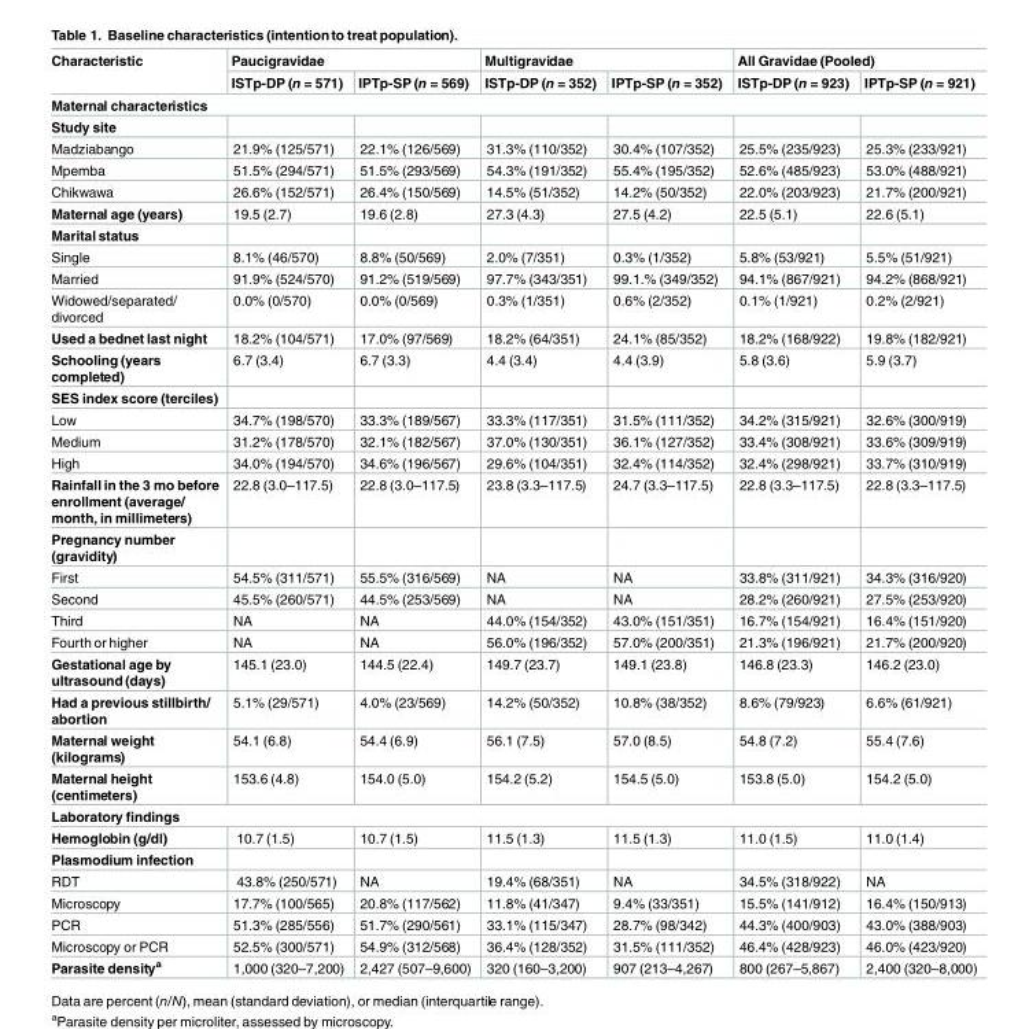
<table><thead><tr><td rowspan="2">Characteristic</td><td colspan="2">Paucigravidae</td><td colspan="2">Multigravidae</td><td colspan="2">All Gravidae (Pooled)</td></tr><tr><td>ISTp-DP (n = 571)</td><td>IPTp-SP (n = 569)</td><td>ISTp-DP (n = 352)</td><td>IPTp-SP (n = 352)</td><td>ISTp-DP (n = 923)</td><td>IPTp-SP (n = 921)</td></tr></thead><tbody><tr><td colspan="7">Maternal characteristics</td></tr><tr><td colspan="7">Study site</td></tr><tr><td>Madziabango</td><td>21.9% (125/571)</td><td>22.1% (126/569)</td><td>31.3% (110/352)</td><td>30.4% (107/352)</td><td>25.5% (235/923)</td><td>25.3% (233/921)</td></tr><tr><td>Mpemba</td><td>51.5% (294/571)</td><td>51.5% (293/569)</td><td>54.3% (191/352)</td><td>55.4% (195/352)</td><td>52.6% (485/923)</td><td>53.0% (488/921)</td></tr><tr><td>Chikwawa</td><td>26.6% (152/571)</td><td>26.4% (150/569)</td><td>14.5% (51/352)</td><td>14.2% (50/352)</td><td>22.0% (203/923)</td><td>21.7% (200/921)</td></tr><tr><td>Maternal age (years)</td><td>19.5 (2.7)</td><td>19.6 (2.8)</td><td>27.3 (4.3)</td><td>27.5 (4.2)</td><td>22.5 (5.1)</td><td>22.6 (5.1)</td></tr><tr><td colspan="7">Marital status</td></tr><tr><td>Single</td><td>8.1% (46/570)</td><td>8.8% (50/569)</td><td>2.0% (7/351)</td><td>0.3% (1/352)</td><td>5.8% (53/921)</td><td>5.5% (51/921)</td></tr><tr><td>Married</td><td>91.9% (524/570)</td><td>91.2% (519/569)</td><td>97.7% (343/351)</td><td>99.1.% (349/352)</td><td>94.1% (867/921)</td><td>94.2% (868/921)</td></tr><tr><td>Widowed/separated/ divorced</td><td>0.0% (0/570)</td><td>0.0% (0/569)</td><td>0.3% (1/351)</td><td>0.6% (2/352)</td><td>0.1% (1/921)</td><td>0.2% (2/921)</td></tr><tr><td>Used a bednet last night</td><td>18.2% (104/571)</td><td>17.0% (97/569)</td><td>18.2% (64/351)</td><td>24.1% (85/352)</td><td>18.2% (168/922)</td><td>19.8% (182/921)</td></tr><tr><td>Schooling (years completed)</td><td>6.7 (3.4)</td><td>6.7 (3.3)</td><td>4.4 (3.4)</td><td>4.4 (3.9)</td><td>5.8 (3.6)</td><td>5.9 (3.7)</td></tr><tr><td colspan="7">SES index score (terciles)</td></tr><tr><td>Low</td><td>34.7% (198/570)</td><td>33.3% (189/567)</td><td>33.3% (117/351)</td><td>31.5% (111/352)</td><td>34.2% (315/921)</td><td>32.6% (300/919)</td></tr><tr><td>Medium</td><td>31.2% (178/570)</td><td>32.1% (182/567)</td><td>37.0% (130/351)</td><td>36.1% (127/352)</td><td>33.4% (308/921)</td><td>33.6% (309/919)</td></tr><tr><td>High</td><td>34.0% (194/570)</td><td>34.6% (196/567)</td><td>29.6% (104/351)</td><td>32.4% (114/352)</td><td>32.4% (298/921)</td><td>33.7% (310/919)</td></tr><tr><td>Rainfall in the 3 mo before enrollment (average/ month, in millimeters)</td><td>22.8 (3.0–117.5)</td><td>22.8 (3.0–117.5)</td><td>23.8 (3.3–117.5)</td><td>24.7 (3.3–117.5)</td><td>22.8 (3.3–117.5)</td><td>22.8 (3.3–117.5)</td></tr><tr><td colspan="7">Pregnancy number (gravidity)</td></tr><tr><td>First</td><td>54.5% (311/571)</td><td>55.5% (316/569)</td><td>NA</td><td>NA</td><td>33.8% (311/921)</td><td>34.3% (316/920)</td></tr><tr><td>Second</td><td>45.5% (260/571)</td><td>44.5% (253/569)</td><td>NA</td><td>NA</td><td>28.2% (260/921)</td><td>27.5% (253/920)</td></tr><tr><td>Third</td><td>NA</td><td>NA</td><td>44.0% (154/352)</td><td>43.0% (151/351)</td><td>16.7% (154/921)</td><td>16.4% (151/920)</td></tr><tr><td>Fourth or higher</td><td>NA</td><td>NA</td><td>56.0% (196/352)</td><td>57.0% (200/351)</td><td>21.3% (196/921)</td><td>21.7% (200/920)</td></tr><tr><td>Gestational age by ultrasound(days)</td><td>145.1 (23.0)</td><td>144.5 (22.4)</td><td>149.7 (23.7)</td><td>149.1 (23.8)</td><td>146.8 (23.3)</td><td>146.2 (23.0)</td></tr><tr><td>Had a previous stillbirth/ abortion</td><td>5.1% (29/571)</td><td>4.0% (23/569)</td><td>14.2% (50/352)</td><td>10.8% (38/352)</td><td>8.6% (79/923)</td><td>6.6% (61/921)</td></tr><tr><td>Maternal weight (kilograms)</td><td>54.1 (6.8)</td><td>54.4 (6.9)</td><td>56.1 (7.5)</td><td>57.0 (8.5)</td><td>54.8 (7.2)</td><td>55.4 (7.6)</td></tr><tr><td>Maternal height (centimeters)</td><td>153.6 (4.8)</td><td>154.0 (5.0)</td><td>154.2 (5.2)</td><td>154.5 (5.0)</td><td>153.8 (5.0)</td><td>154.2 (5.0)</td></tr><tr><td colspan="7">Laboratory findings</td></tr><tr><td>Hemoglobin (g/dl)</td><td>10.7 (1.5)</td><td>10.7 (1.5)</td><td>11.5 (1.3)</td><td>11.5 (1.3)</td><td>11.0 (1.5)</td><td>11.0 (1.4)</td></tr><tr><td colspan="7">Plasmodium infection</td></tr><tr><td>RDT</td><td>43.8% (250/571)</td><td>NA</td><td>19.4% (68/351)</td><td>NA</td><td>34.5% (318/922)</td><td>NA</td></tr><tr><td>Microscopy</td><td>17.7% (100/565)</td><td>20.8% (117/562)</td><td>11.8% (41/347)</td><td>9.4% (33/351)</td><td>15.5% (141/912)</td><td>16.4% (150/913)</td></tr><tr><td>PCR</td><td>51.3% (285/556)</td><td>51.7% (290/561)</td><td>33.1% (115/347)</td><td>28.7% (98/342)</td><td>44.3% (400/903)</td><td>43.0% (388/903)</td></tr><tr><td>Microscopy or PCR</td><td>52.5% (300/571)</td><td>54.9% (312/568)</td><td>36.4% (128/352)</td><td>31.5% (111/352)</td><td>46.4% (428/923)</td><td>46.0% (423/920)</td></tr><tr><td>Parasite density<sup>a</sup></td><td>1,000 (320–7,200)</td><td>2,427 (507–9,600)</td><td>320 (160–3,200)</td><td>907 (213–4,267)</td><td>800 (267–5,867)</td><td>2,400 (320–8,000)</td></tr></tbody></table>